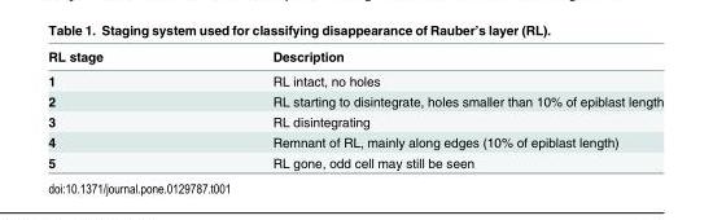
<table><thead><tr><td>RL stage</td><td>Description</td></tr></thead><tbody><tr><td>1</td><td>RL intact, no holes</td></tr><tr><td>2</td><td>RL starting to disintegrate, holes smaller than 10% of epiblast length</td></tr><tr><td>3</td><td>RL disintegrating</td></tr><tr><td>4</td><td>Remnant of RL, mainly along edges (10% of epiblast length)</td></tr><tr><td>5</td><td>RL gone, odd cell may still be seen</td></tr></tbody></table>